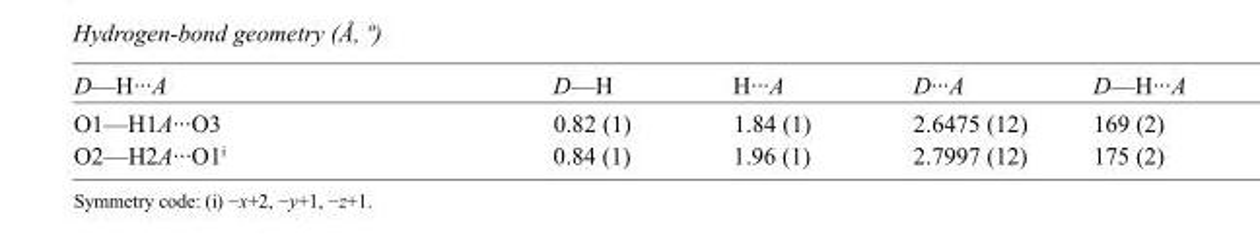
<table><tbody><tr><td>D—H···A</td><td>D—H</td><td>H···A</td><td>D···A</td><td>D—H···A</td></tr><tr><td>O1—H1A···O3</td><td>0.82 (1)</td><td>1.84 (1)</td><td>2.6475 (12)</td><td>169 (2)</td></tr><tr><td>O2—H2A···O1<sup>i</sup></td><td>0.84 (1)</td><td>1.96 (1)</td><td>2.7997 (12)</td><td>175 (2)</td></tr></tbody></table>